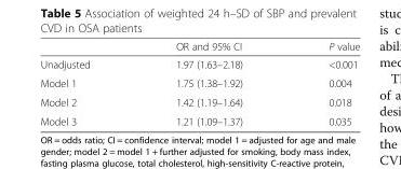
<table><thead><tr><td></td><td>OR and 95% CI</td><td>P value</td></tr></thead><tbody><tr><td>Unadjusted</td><td>1.97 (1.63–2.18)</td><td>&lt;0.001</td></tr><tr><td>Model 1</td><td>1.75 (1.38–1.92)</td><td>0.004</td></tr><tr><td>Model 2</td><td>1.42 (1.19–1.64)</td><td>0.018</td></tr><tr><td>Model 3</td><td>1.21 (1.09–1.37)</td><td>0.035</td></tr></tbody></table>